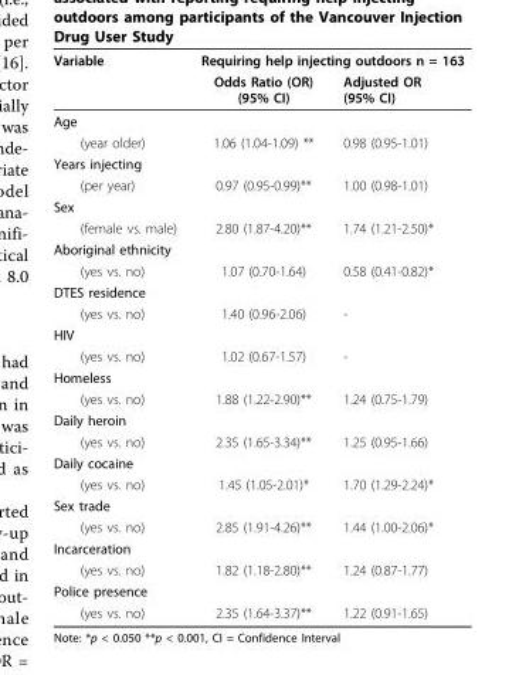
<table><thead><tr><td rowspan="2">Variable</td><td colspan="2">Requiring help injecting outdoors n = 163</td></tr><tr><td>Odds Ratio (OR) (95% CI)</td><td>Adjusted OR (95% CI)</td></tr></thead><tbody><tr><td colspan="3">Age</td></tr><tr><td>(year older)</td><td>1.06 (1.04-1.09) **</td><td>0.98 (0.95-1.01)</td></tr><tr><td colspan="3">Years injecting</td></tr><tr><td>(per year)</td><td>0.97 (0.95-0.99)**</td><td>1.00 (0.98-1.01)</td></tr><tr><td colspan="3">Sex</td></tr><tr><td>(female vs. male)</td><td>2.80 (1.87-4.20)**</td><td>1.74 (1.21-2.50)*</td></tr><tr><td colspan="3">Aboriginal ethnicity</td></tr><tr><td>(yes vs. no)</td><td>1.07 (0.70-1.64)</td><td>0.58 (0.41-0.82)*</td></tr><tr><td colspan="3">DTES residence</td></tr><tr><td>(yes vs. no)</td><td>1.40 (0.96-2.06)</td><td>-</td></tr><tr><td colspan="3">HIV</td></tr><tr><td>(yes vs. no)</td><td>1.02 (0.67-1.57)</td><td>-</td></tr><tr><td colspan="3">Homeless</td></tr><tr><td>(yes vs. no)</td><td>1.88 (1.22-2.90)**</td><td>1.24 (0.75-1.79)</td></tr><tr><td colspan="3">Daily heroin</td></tr><tr><td>(yes vs. no)</td><td>2.35 (1.65-3.34)**</td><td>1.25 (0.95-1.66)</td></tr><tr><td colspan="3">Daily cocaine</td></tr><tr><td>(yes vs. no)</td><td>1.45 (1.05-2.01)*</td><td>1.70 (1.29-2.24)*</td></tr><tr><td colspan="3">Sex trade</td></tr><tr><td>(yes vs. no)</td><td>2.85 (1.91-4.26)**</td><td>1.44 (1.00-2.06)*</td></tr><tr><td colspan="3">Incarceration</td></tr><tr><td>(yes vs. no)</td><td>1.82 (1.18-2.80)**</td><td>1.24 (0.87-1.77)</td></tr><tr><td colspan="3">Police presence</td></tr><tr><td>(yes vs. no)</td><td>2.35 (1.64-3.37)**</td><td>1.22 (0.91-1.65)</td></tr></tbody></table>